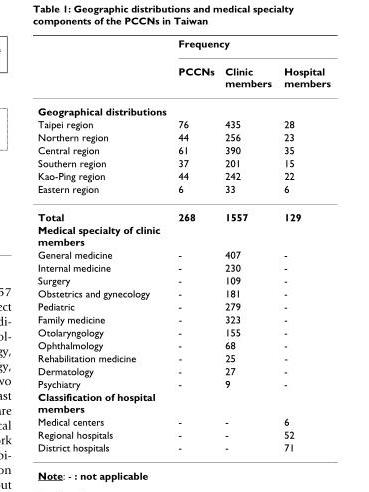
<table><thead><tr><td rowspan="2"></td><td colspan="3">Frequency</td></tr><tr><td>PCCNs</td><td>Clinic members</td><td>Hospital members</td></tr></thead><tbody><tr><td colspan="4">Geographical distributions</td></tr><tr><td>Taipei region</td><td>76</td><td>435</td><td>28</td></tr><tr><td>Northern region</td><td>44</td><td>256</td><td>23</td></tr><tr><td>Central region</td><td>61</td><td>390</td><td>35</td></tr><tr><td>Southern region</td><td>37</td><td>201</td><td>15</td></tr><tr><td>Kao-Ping region</td><td>44</td><td>242</td><td>22</td></tr><tr><td>Eastern region</td><td>6</td><td>33</td><td>6</td></tr><tr><td>Total</td><td>268</td><td>1557</td><td>129</td></tr><tr><td colspan="4">Medical specialty of clinic members</td></tr><tr><td>General medicine</td><td>-</td><td>407</td><td>-</td></tr><tr><td>Internal medicine</td><td>-</td><td>230</td><td>-</td></tr><tr><td>Surgery</td><td>-</td><td>109</td><td>-</td></tr><tr><td>Obstetrics and gynecology</td><td>-</td><td>181</td><td>-</td></tr><tr><td>Pediatric</td><td>-</td><td>279</td><td>-</td></tr><tr><td>Family medicine</td><td>-</td><td>323</td><td>-</td></tr><tr><td>Otolaryngology</td><td>-</td><td>155</td><td>-</td></tr><tr><td>Ophthalmology</td><td>-</td><td>68</td><td>-</td></tr><tr><td>Rehabilitation medicine</td><td>-</td><td>25</td><td>-</td></tr><tr><td>Dermatology</td><td>-</td><td>27</td><td>-</td></tr><tr><td>Psychiatry</td><td>-</td><td>9</td><td>-</td></tr><tr><td colspan="4">Classification of hospital members</td></tr><tr><td>Medical centers</td><td>-</td><td>-</td><td>6</td></tr><tr><td>Regional hospitals</td><td>-</td><td>-</td><td>52</td></tr><tr><td>District hospitals</td><td>-</td><td>-</td><td>71</td></tr></tbody></table>